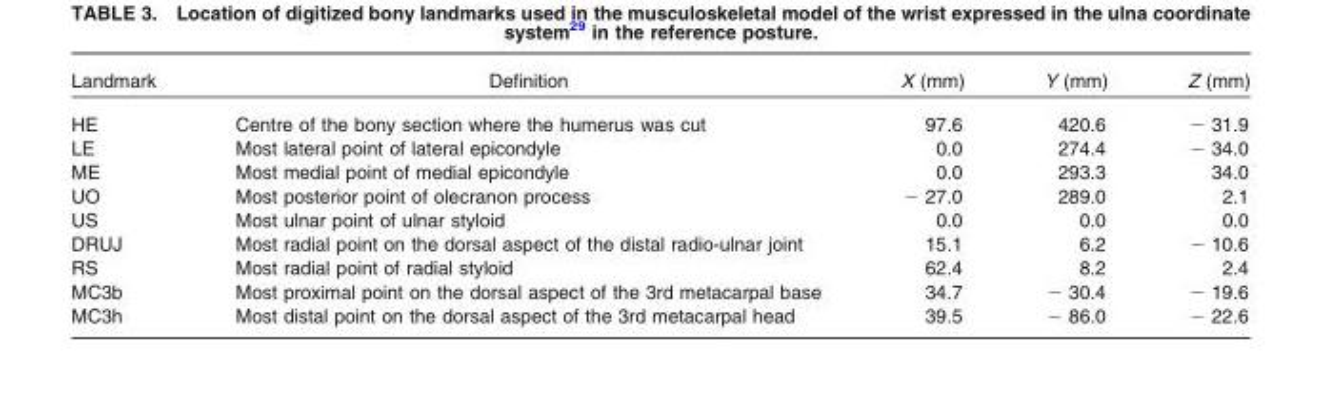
<table><thead><tr><td>Landmark</td><td>Definition</td><td>X (mm)</td><td>Y (mm)</td><td>Z (mm)</td></tr></thead><tbody><tr><td>HE</td><td>Centre of the bony section where the humerus was cut</td><td>97.6</td><td>420.6</td><td>− 31.9</td></tr><tr><td>LE</td><td>Most lateral point of lateral epicondyle</td><td>0.0</td><td>274.4</td><td>− 34.0</td></tr><tr><td>ME</td><td>Most medial point of medial epicondyle</td><td>0.0</td><td>293.3</td><td>34.0</td></tr><tr><td>UO</td><td>Most posterior point of olecranon process</td><td>− 27.0</td><td>289.0</td><td>2.1</td></tr><tr><td>US</td><td>Most ulnar point of ulnar styloid</td><td>0.0</td><td>0.0</td><td>0.0</td></tr><tr><td>DRUJ</td><td>Most radial point on the dorsal aspect of the distal radio-ulnar joint</td><td>15.1</td><td>6.2</td><td>− 10.6</td></tr><tr><td>RS</td><td>Most radial point of radial styloid</td><td>62.4</td><td>8.2</td><td>2.4</td></tr><tr><td>MC3b</td><td>Most proximal point on the dorsal aspect of the 3rd metacarpal base</td><td>34.7</td><td>− 30.4</td><td>− 19.6</td></tr><tr><td>MC3h</td><td>Most distal point on the dorsal aspect of the 3rd metacarpal head</td><td>39.5</td><td>− 86.0</td><td>− 22.6</td></tr></tbody></table>